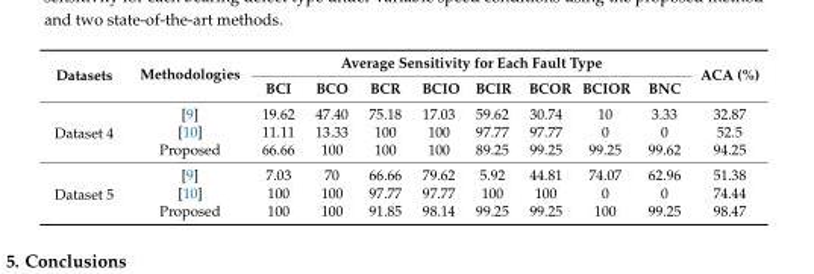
<table><thead><tr><td rowspan="2">Datasets</td><td rowspan="2">Methodologies</td><td colspan="8">Average Sensitivity for Each Fault Type</td><td rowspan="2">ACA (%)</td></tr><tr><td>BCI</td><td>BCO</td><td>BCR</td><td>BCIO</td><td>BCIR</td><td>BCOR</td><td>BCIOR</td><td>BNC</td></tr></thead><tbody><tr><td rowspan="3">Dataset 4</td><td>[9]</td><td>19.62</td><td>47.40</td><td>75.18</td><td>17.03</td><td>59.62</td><td>30.74</td><td>10</td><td>3.33</td><td>32.87</td></tr><tr><td>[10]</td><td>11.11</td><td>13.33</td><td>100</td><td>100</td><td>97.77</td><td>97.77</td><td>0</td><td>0</td><td>52.5</td></tr><tr><td>Proposed</td><td>66.66</td><td>100</td><td>100</td><td>100</td><td>89.25</td><td>99.25</td><td>99.25</td><td>99.62</td><td>94.25</td></tr><tr><td rowspan="3">Dataset 5</td><td>[9]</td><td>7.03</td><td>70</td><td>66.66</td><td>79.62</td><td>5.92</td><td>44.81</td><td>74.07</td><td>62.96</td><td>51.38</td></tr><tr><td>[10]</td><td>100</td><td>100</td><td>97.77</td><td>97.77</td><td>100</td><td>100</td><td>0</td><td>0</td><td>74.44</td></tr><tr><td>Proposed</td><td>100</td><td>100</td><td>91.85</td><td>98.14</td><td>99.25</td><td>99.25</td><td>100</td><td>99.25</td><td>98.47</td></tr></tbody></table>